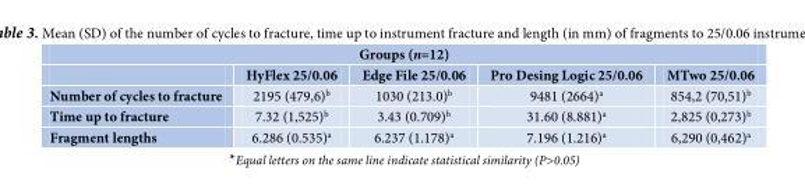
<table><thead><tr><td colspan="5">Groups (n=12)</td></tr><tr><td></td><td>HyFlex 25/0.06</td><td>Edge File 25/0.06</td><td>Pro Desing Logic 25/0.06</td><td>MTwo 25/0.06</td></tr></thead><tbody><tr><td>Number of cycles to fracture</td><td>2195 (479,6)<sup>b</sup></td><td>1030 (213.0)<sup>b</sup></td><td>9481 (2664)<sup>a</sup></td><td>854,2 (70,51)<sup>b</sup></td></tr><tr><td>Time up to fracture</td><td>7.32 (1,525)<sup>b</sup></td><td>3.43 (0.709)<sup>b</sup></td><td>31.60 (8.881)<sup>a</sup></td><td>2,825 (0,273)<sup>b</sup></td></tr><tr><td>Fragment lengths</td><td>6.286 (0.535)<sup>a</sup></td><td>6.237 (1.178)<sup>a</sup></td><td>7.196 (1.216)<sup>a</sup></td><td>6,290 (0,462)<sup>a</sup></td></tr></tbody></table>